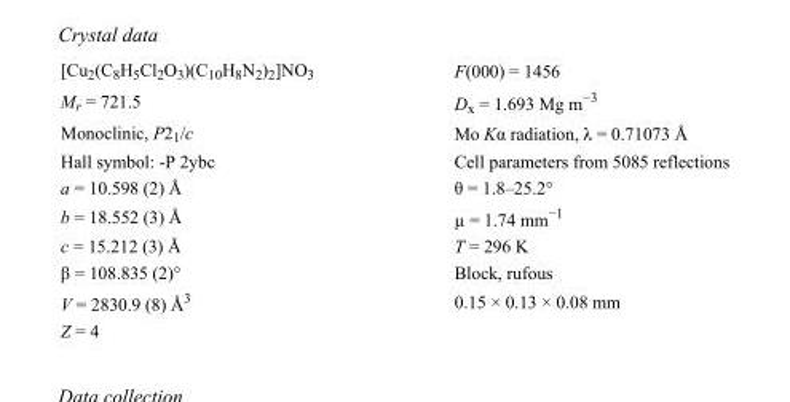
<table><tbody><tr><td>[Cu<sub>2</sub>(C<sub>8</sub>H<sub>5</sub>Cl<sub>2</sub>O<sub>3</sub>)(C<sub>10</sub>H<sub>8</sub>N<sub>2</sub>)<sub>2</sub>]NO<sub>3</sub></td><td>F(000) = 1456</td></tr><tr><td>M<sub>r</sub> = 721.5</td><td>D<sub>x</sub> = 1.693 Mg m<sup>−3</sup></td></tr><tr><td>Monoclinic, P2<sub>1</sub>/c</td><td>Mo Kα radiation, λ = 0.71073 Å</td></tr><tr><td>Hall symbol: -P 2ybc</td><td>Cell parameters from 5085 reflections</td></tr><tr><td>a = 10.598 (2) Å</td><td>θ = 1.8–25.2°</td></tr><tr><td>b = 18.552 (3) Å</td><td>µ = 1.74 mm<sup>−1</sup></td></tr><tr><td>c = 15.212 (3) Å</td><td>T = 296 K</td></tr><tr><td>β = 108.835 (2)°</td><td>Block, rufous</td></tr><tr><td>V = 2830.9 (8) Å<sup>3</sup></td><td>0.15 × 0.13 × 0.08 mm</td></tr><tr><td>Z = 4</td><td></td></tr></tbody></table>